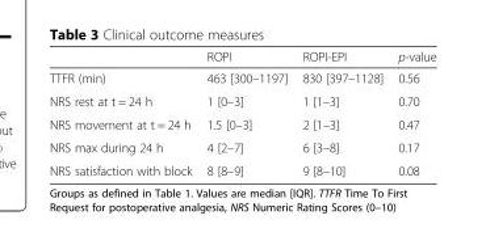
<table><thead><tr><td></td><td>ROPI</td><td>ROPI-EPI</td><td>p-value</td></tr></thead><tbody><tr><td>TTFR (min)</td><td>463 [300–1197]</td><td>830 [397–1128]</td><td>0.56</td></tr><tr><td>NRS rest at t = 24 h</td><td>1 [0–3]</td><td>1 [1–3]</td><td>0.70</td></tr><tr><td>NRS movement at t = 24 h</td><td>1.5 [0–3]</td><td>2 [1–3]</td><td>0.47</td></tr><tr><td>NRS max during 24 h</td><td>4 [2–7]</td><td>6 [3–8]</td><td>0.17</td></tr><tr><td>NRS satisfaction with block</td><td>8 [8–9]</td><td>9 [8–10]</td><td>0.08</td></tr></tbody></table>